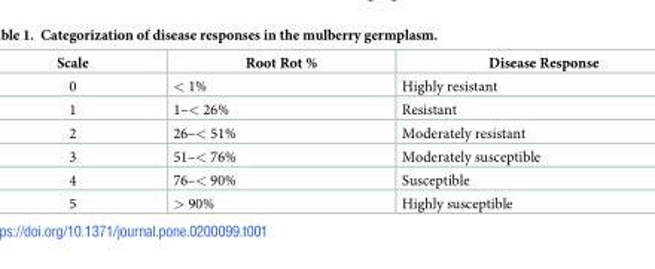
<table><thead><tr><td>Scale</td><td>Root Rot %</td><td>Disease Response</td></tr></thead><tbody><tr><td>0</td><td>&lt; 1%</td><td>Highly resistant</td></tr><tr><td>1</td><td>1–&lt; 26%</td><td>Resistant</td></tr><tr><td>2</td><td>26–&lt; 51%</td><td>Moderately resistant</td></tr><tr><td>3</td><td>51–&lt; 76%</td><td>Moderately susceptible</td></tr><tr><td>4</td><td>76–&lt; 90%</td><td>Susceptible</td></tr><tr><td>5</td><td>&gt; 90%</td><td>Highly susceptible</td></tr></tbody></table>